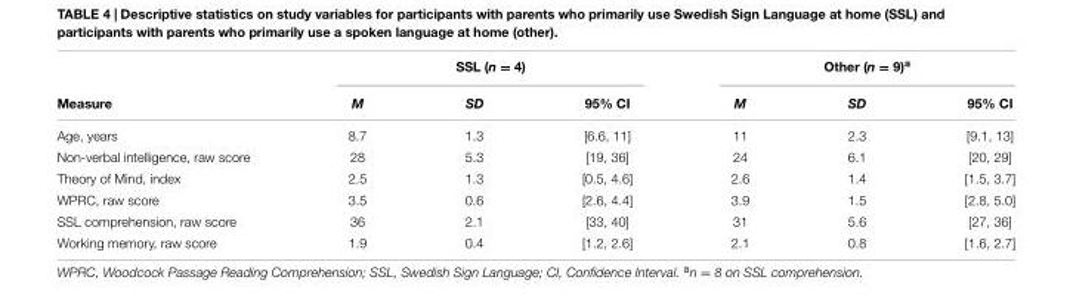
<table><thead><tr><td rowspan="2">Measure</td><td colspan="3">SSL (n = 4)</td><td colspan="3">Other (n = 9)<sup>a</sup></td></tr><tr><td>M</td><td>SD</td><td>95% CI</td><td>M</td><td>SD</td><td>95% CI</td></tr></thead><tbody><tr><td>Age, years</td><td>8.7</td><td>1.3</td><td>[6.6, 11]</td><td>11</td><td>2.3</td><td>[9.1, 13]</td></tr><tr><td>Non-verbal intelligence, raw score</td><td>28</td><td>5.3</td><td>[19, 36]</td><td>24</td><td>6.1</td><td>[20, 29]</td></tr><tr><td>Theory of Mind, index</td><td>2.5</td><td>1.3</td><td>[0.5, 4.6]</td><td>2.6</td><td>1.4</td><td>[1.5, 3.7]</td></tr><tr><td>WPRC, raw score</td><td>3.5</td><td>0.6</td><td>[2.6, 4.4]</td><td>3.9</td><td>1.5</td><td>[2.8, 5.0]</td></tr><tr><td>SSL comprehension, raw score</td><td>36</td><td>2.1</td><td>[33, 40]</td><td>31</td><td>5.6</td><td>[27, 36]</td></tr><tr><td>Working memory, raw score</td><td>1.9</td><td>0.4</td><td>[1.2, 2.6]</td><td>2.1</td><td>0.8</td><td>[1.6, 2.7]</td></tr></tbody></table>